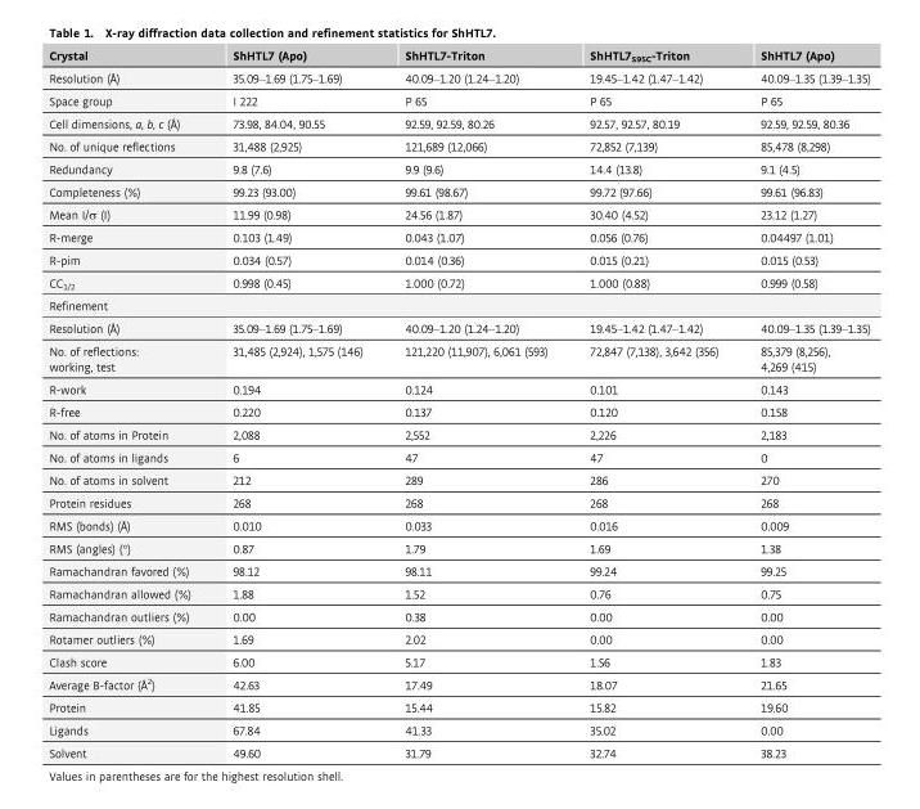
<table><thead><tr><td>Crystal</td><td>ShHTL7 (Apo)</td><td>ShHTL7-Triton</td><td>ShHTL7<sub>S95C</sub>-Triton</td><td>ShHTL7 (Apo)</td></tr></thead><tbody><tr><td>Resolution (Å)</td><td>35.09–1.69 (1.75–1.69)</td><td>40.09–1.20 (1.24–1.20)</td><td>19.45–1.42 (1.47–1.42)</td><td>40.09–1.35 (1.39–1.35)</td></tr><tr><td>Space group</td><td>I 222</td><td>P 65</td><td>P 65</td><td>P 65</td></tr><tr><td>Cell dimensions, a, b, c (Å)</td><td>73.98, 84.04, 90.55</td><td>92.59, 92.59, 80.26</td><td>92.57, 92.57, 80.19</td><td>92.59, 92.59, 80.36</td></tr><tr><td>No. of unique reflections</td><td>31,488 (2,925)</td><td>121,689 (12,066)</td><td>72,852 (7,139)</td><td>85,478 (8,298)</td></tr><tr><td>Redundancy</td><td>9.8 (7.6)</td><td>9.9 (9.6)</td><td>14.4 (13.8)</td><td>9.1 (4.5)</td></tr><tr><td>Completeness (%)</td><td>99.23 (93.00)</td><td>99.61 (98.67)</td><td>99.72 (97.66)</td><td>99.61 (96.83)</td></tr><tr><td>Mean I/σ (I)</td><td>11.99 (0.98)</td><td>24.56 (1.87)</td><td>30.40 (4.52)</td><td>23.12 (1.27)</td></tr><tr><td>R-merge</td><td>0.103 (1.49)</td><td>0.043 (1.07)</td><td>0.056 (0.76)</td><td>0.04497 (1.01)</td></tr><tr><td>R-pim</td><td>0.034 (0.57)</td><td>0.014 (0.36)</td><td>0.015 (0.21)</td><td>0.015 (0.53)</td></tr><tr><td>CC<sub>1/2</sub></td><td>0.998 (0.45)</td><td>1.000 (0.72)</td><td>1.000 (0.88)</td><td>0.999 (0.58)</td></tr><tr><td colspan="5">Refinement</td></tr><tr><td>Resolution (Å)</td><td>35.09–1.69 (1.75–1.69)</td><td>40.09–1.20 (1.24–1.20)</td><td>19.45–1.42 (1.47–1.42)</td><td>40.09–1.35 (1.39–1.35)</td></tr><tr><td>No. of reflections: working, test</td><td>31,485 (2,924), 1,575 (146)</td><td>121,220 (11,907), 6,061 (593)</td><td>72,847 (7,138), 3,642 (356)</td><td>85,379 (8,256), 4,269 (415)</td></tr><tr><td>R-work</td><td>0.194</td><td>0.124</td><td>0.101</td><td>0.143</td></tr><tr><td>R-free</td><td>0.220</td><td>0.137</td><td>0.120</td><td>0.158</td></tr><tr><td>No. of atoms in Protein</td><td>2,088</td><td>2,552</td><td>2,226</td><td>2,183</td></tr><tr><td>No. of atoms in ligands</td><td>6</td><td>47</td><td>47</td><td>0</td></tr><tr><td>No. of atoms in solvent</td><td>212</td><td>289</td><td>286</td><td>270</td></tr><tr><td>Protein residues</td><td>268</td><td>268</td><td>268</td><td>268</td></tr><tr><td>RMS (bonds) (Å)</td><td>0.010</td><td>0.033</td><td>0.016</td><td>0.009</td></tr><tr><td>RMS (angles) (°)</td><td>0.87</td><td>1.79</td><td>1.69</td><td>1.38</td></tr><tr><td>Ramachandran favored (%)</td><td>98.12</td><td>98.11</td><td>99.24</td><td>99.25</td></tr><tr><td>Ramachandran allowed (%)</td><td>1.88</td><td>1.52</td><td>0.76</td><td>0.75</td></tr><tr><td>Ramachandran outliers (%)</td><td>0.00</td><td>0.38</td><td>0.00</td><td>0.00</td></tr><tr><td>Rotamer outliers (%)</td><td>1.69</td><td>2.02</td><td>0.00</td><td>0.00</td></tr><tr><td>Clash score</td><td>6.00</td><td>5.17</td><td>1.56</td><td>1.83</td></tr><tr><td>Average B-factor (Å<sup>2</sup>)</td><td>42.63</td><td>17.49</td><td>18.07</td><td>21.65</td></tr><tr><td>Protein</td><td>41.85</td><td>15.44</td><td>15.82</td><td>19.60</td></tr><tr><td>Ligands</td><td>67.84</td><td>41.33</td><td>35.02</td><td>0.00</td></tr><tr><td>Solvent</td><td>49.60</td><td>31.79</td><td>32.74</td><td>38.23</td></tr></tbody></table>